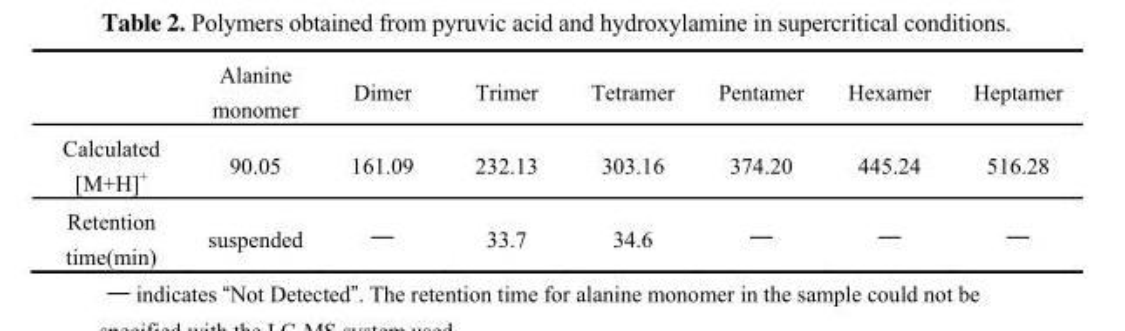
<table><thead><tr><td></td><td>Alanine monomer</td><td>Dimer</td><td>Trimer</td><td>Tetramer</td><td>Pentamer</td><td>Hexamer</td><td>Heptamer</td></tr></thead><tbody><tr><td>Calculated [M+H]<sup>+</sup></td><td>90.05</td><td>161.09</td><td>232.13</td><td>303.16</td><td>374.20</td><td>445.24</td><td>516.28</td></tr><tr><td>Retention time(min)</td><td>suspended</td><td>─</td><td>33.7</td><td>34.6</td><td>─</td><td>─</td><td>─</td></tr></tbody></table>